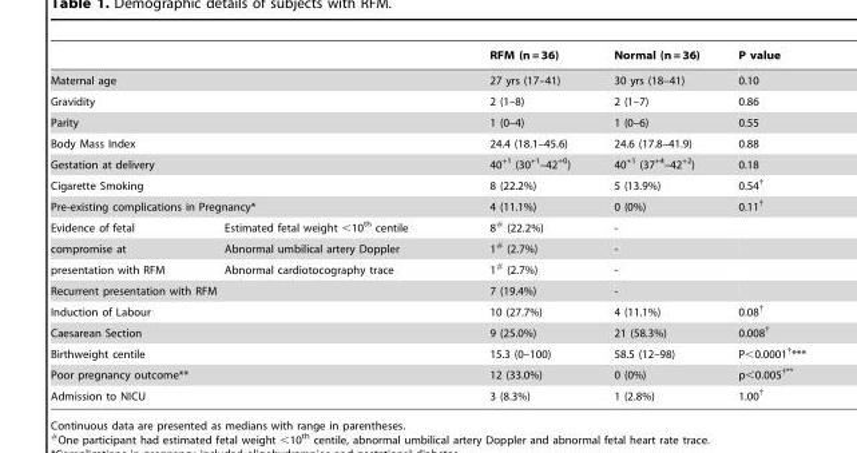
<table><thead><tr><td></td><td></td><td>RFM (n = 36)</td><td>Normal (n = 36)</td><td>P value</td></tr></thead><tbody><tr><td colspan="2">Maternal age</td><td>27 yrs (17–41)</td><td>30 yrs (18–41)</td><td>0.10</td></tr><tr><td colspan="2">Gravidity</td><td>2 (1–8)</td><td>2 (1–7)</td><td>0.86</td></tr><tr><td colspan="2">Parity</td><td>1 (0–4)</td><td>1 (0–6)</td><td>0.55</td></tr><tr><td colspan="2">Body Mass Index</td><td>24.4 (18.1–45.6)</td><td>24.6 (17.8–41.9)</td><td>0.88</td></tr><tr><td colspan="2">Gestation at delivery</td><td>40<sup>+1</sup> (30<sup>+1</sup>–42<sup>+0</sup>)</td><td>40<sup>+1</sup> (37<sup>+4</sup>–42<sup>+2</sup>)</td><td>0.18</td></tr><tr><td colspan="2">Cigarette Smoking</td><td>8 (22.2%)</td><td>5 (13.9%)</td><td>0.54†</td></tr><tr><td colspan="2">Pre-existing complications in Pregnancy*</td><td>4 (11.1%)</td><td>0 (0%)</td><td>0.11†</td></tr><tr><td>Evidence of fetal</td><td>Estimated fetal weight &lt;10<sup>th</sup> centile</td><td>8# (22.2%)</td><td>-</td><td></td></tr><tr><td>compromise at</td><td>Abnormal umbilical artery Doppler</td><td>1# (2.7%)</td><td>-</td><td></td></tr><tr><td>presentation with RFM</td><td>Abnormal cardiotocography trace</td><td>1# (2.7%)</td><td>-</td><td></td></tr><tr><td colspan="2">Recurrent presentation with RFM</td><td>7 (19.4%)</td><td>-</td><td></td></tr><tr><td colspan="2">Induction of Labour</td><td>10 (27.7%)</td><td>4 (11.1%)</td><td>0.08†</td></tr><tr><td colspan="2">Caesarean Section</td><td>9 (25.0%)</td><td>21 (58.3%)</td><td>0.008†</td></tr><tr><td colspan="2">Birthweight centile</td><td>15.3 (0–100)</td><td>58.5 (12–98)</td><td>P&lt;0.0001†***</td></tr><tr><td colspan="2">Poor pregnancy outcome**</td><td>12 (33.0%)</td><td>0 (0%)</td><td>p&lt;0.005†**</td></tr><tr><td colspan="2">Admission to NICU</td><td>3 (8.3%)</td><td>1 (2.8%)</td><td>1.00†</td></tr></tbody></table>